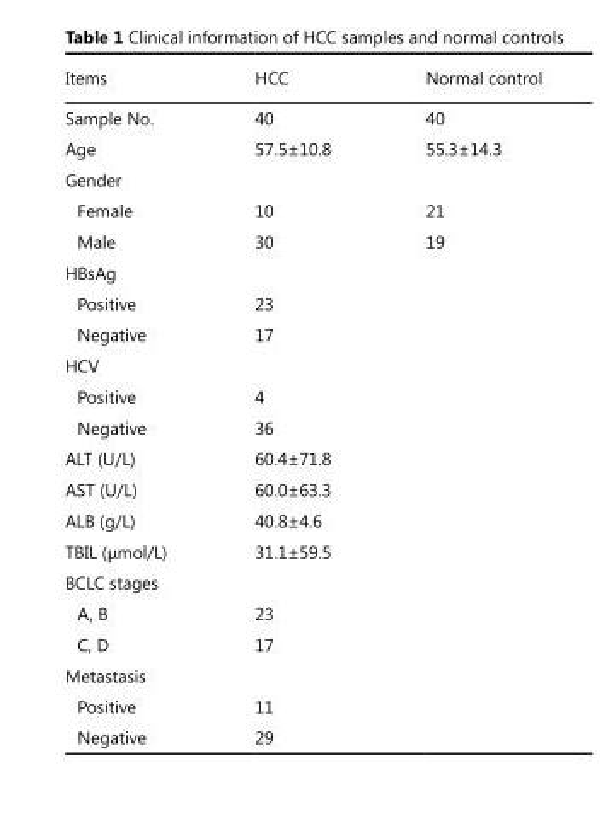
<table><thead><tr><td>Items</td><td>HCC</td><td>Normal control</td></tr></thead><tbody><tr><td>Sample No.</td><td>40</td><td>40</td></tr><tr><td>Age</td><td>57.5±10.8</td><td>55.3±14.3</td></tr><tr><td colspan="3">Gender</td></tr><tr><td>Female</td><td>10</td><td>21</td></tr><tr><td>Male</td><td>30</td><td>19</td></tr><tr><td colspan="3">HBsAg</td></tr><tr><td>Positive</td><td>23</td><td></td></tr><tr><td>Negative</td><td>17</td><td></td></tr><tr><td colspan="3">HCV</td></tr><tr><td>Positive</td><td>4</td><td></td></tr><tr><td>Negative</td><td>36</td><td></td></tr><tr><td>ALT (U/L)</td><td>60.4±71.8</td><td></td></tr><tr><td>AST (U/L)</td><td>60.0±63.3</td><td></td></tr><tr><td>ALB (g/L)</td><td>40.8±4.6</td><td></td></tr><tr><td>TBIL (μmol/L)</td><td>31.1±59.5</td><td></td></tr><tr><td colspan="3">BCLC stages</td></tr><tr><td>A, B</td><td>23</td><td></td></tr><tr><td>C, D</td><td>17</td><td></td></tr><tr><td colspan="3">Metastasis</td></tr><tr><td>Positive</td><td>11</td><td></td></tr><tr><td>Negative</td><td>29</td><td></td></tr></tbody></table>